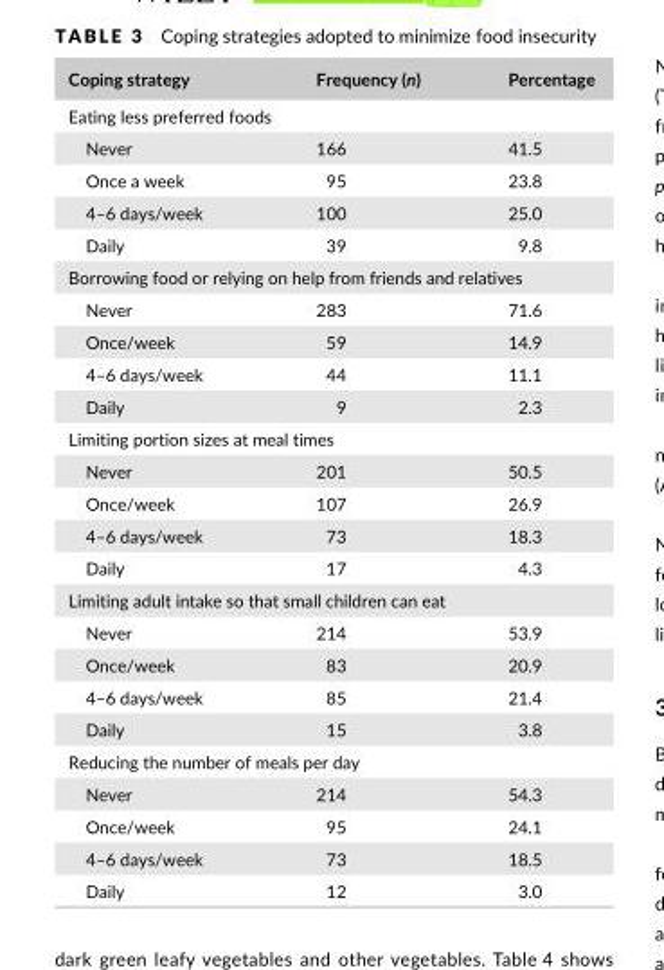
<table><thead><tr><td>Coping strategy</td><td>Frequency (n)</td><td>Percentage</td></tr></thead><tbody><tr><td colspan="3">Eating less preferred foods</td></tr><tr><td>Never</td><td>166</td><td>41.5</td></tr><tr><td>Once a week</td><td>95</td><td>23.8</td></tr><tr><td>4–6 days/week</td><td>100</td><td>25.0</td></tr><tr><td>Daily</td><td>39</td><td>9.8</td></tr><tr><td colspan="3">Borrowing food or relying on help from friends and relatives</td></tr><tr><td>Never</td><td>283</td><td>71.6</td></tr><tr><td>Once/week</td><td>59</td><td>14.9</td></tr><tr><td>4–6 days/week</td><td>44</td><td>11.1</td></tr><tr><td>Daily</td><td>9</td><td>2.3</td></tr><tr><td colspan="3">Limiting portion sizes at meal times</td></tr><tr><td>Never</td><td>201</td><td>50.5</td></tr><tr><td>Once/week</td><td>107</td><td>26.9</td></tr><tr><td>4–6 days/week</td><td>73</td><td>18.3</td></tr><tr><td>Daily</td><td>17</td><td>4.3</td></tr><tr><td colspan="3">Limiting adult intake so that small children can eat</td></tr><tr><td>Never</td><td>214</td><td>53.9</td></tr><tr><td>Once/week</td><td>83</td><td>20.9</td></tr><tr><td>4–6 days/week</td><td>85</td><td>21.4</td></tr><tr><td>Daily</td><td>15</td><td>3.8</td></tr><tr><td colspan="3">Reducing the number of meals per day</td></tr><tr><td>Never</td><td>214</td><td>54.3</td></tr><tr><td>Once/week</td><td>95</td><td>24.1</td></tr><tr><td>4–6 days/week</td><td>73</td><td>18.5</td></tr><tr><td>Daily</td><td>12</td><td>3.0</td></tr></tbody></table>